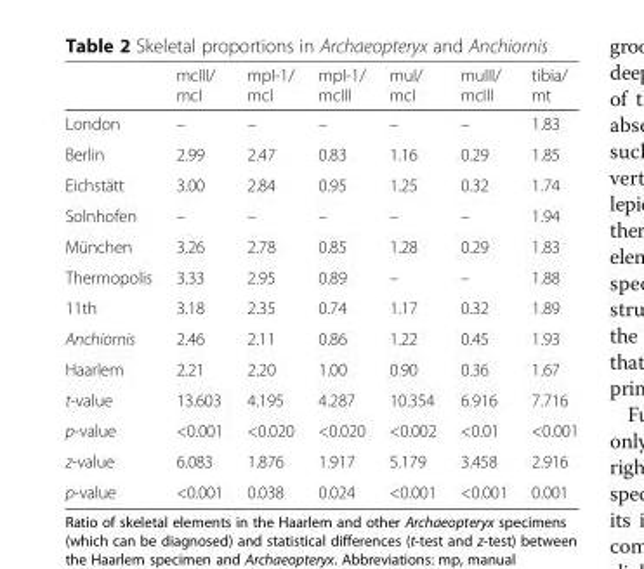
<table><thead><tr><td></td><td>mcIII/ mcI</td><td>mpI-1/ mcI</td><td>mpI-1/ mcIII</td><td>muI/ mcI</td><td>muIII/ mcIII</td><td>tibia/ mt</td></tr></thead><tbody><tr><td>London</td><td>–</td><td>–</td><td>–</td><td>–</td><td>–</td><td>1.83</td></tr><tr><td>Berlin</td><td>2.99</td><td>2.47</td><td>0.83</td><td>1.16</td><td>0.29</td><td>1.85</td></tr><tr><td>Eichstätt</td><td>3.00</td><td>2.84</td><td>0.95</td><td>1.25</td><td>0.32</td><td>1.74</td></tr><tr><td>Solnhofen</td><td>–</td><td>–</td><td>–</td><td>–</td><td>–</td><td>1.94</td></tr><tr><td>München</td><td>3.26</td><td>2.78</td><td>0.85</td><td>1.28</td><td>0.29</td><td>1.83</td></tr><tr><td>Thermopolis</td><td>3.33</td><td>2.95</td><td>0.89</td><td>–</td><td>–</td><td>1.88</td></tr><tr><td>11th</td><td>3.18</td><td>2.35</td><td>0.74</td><td>1.17</td><td>0.32</td><td>1.89</td></tr><tr><td>Anchiornis</td><td>2.46</td><td>2.11</td><td>0.86</td><td>1.22</td><td>0.45</td><td>1.93</td></tr><tr><td>Haarlem</td><td>2.21</td><td>2.20</td><td>1.00</td><td>0.90</td><td>0.36</td><td>1.67</td></tr><tr><td>t-value</td><td>13.603</td><td>4.195</td><td>4.287</td><td>10.354</td><td>6.916</td><td>7.716</td></tr><tr><td>p-value</td><td>&lt;0.001</td><td>&lt;0.020</td><td>&lt;0.020</td><td>&lt;0.002</td><td>&lt;0.01</td><td>&lt;0.001</td></tr><tr><td>z-value</td><td>6.083</td><td>1.876</td><td>1.917</td><td>5.179</td><td>3.458</td><td>2.916</td></tr><tr><td>p-value</td><td>&lt;0.001</td><td>0.038</td><td>0.024</td><td>&lt;0.001</td><td>&lt;0.001</td><td>0.001</td></tr></tbody></table>